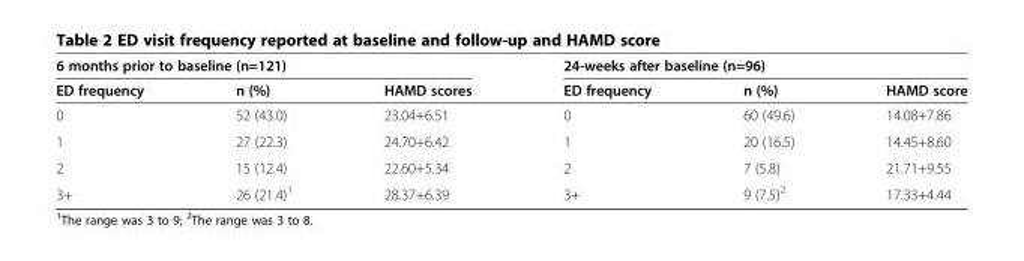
<table><thead><tr><td colspan="3">6 months prior to baseline (n=121)</td><td colspan="3">24-weeks after baseline (n=96)</td></tr><tr><td>ED frequency</td><td>n (%)</td><td>HAMD scores</td><td>ED frequency</td><td>n (%)</td><td>HAMD score</td></tr></thead><tbody><tr><td>0</td><td>52 (43.0)</td><td>23.04+6.51</td><td>0</td><td>60 (49.6)</td><td>14.08+7.86</td></tr><tr><td>1</td><td>27 (22.3)</td><td>24.70+6.42</td><td>1</td><td>20 (16.5)</td><td>14.45+8.60</td></tr><tr><td>2</td><td>15 (12.4)</td><td>22.60+5.34</td><td>2</td><td>7 (5.8)</td><td>21.71+9.55</td></tr><tr><td>3+</td><td>26 (21.4)<sup>1</sup></td><td>28.37+6.39</td><td>3+</td><td>9 (7.5)<sup>2</sup></td><td>17.33+4.44</td></tr></tbody></table>